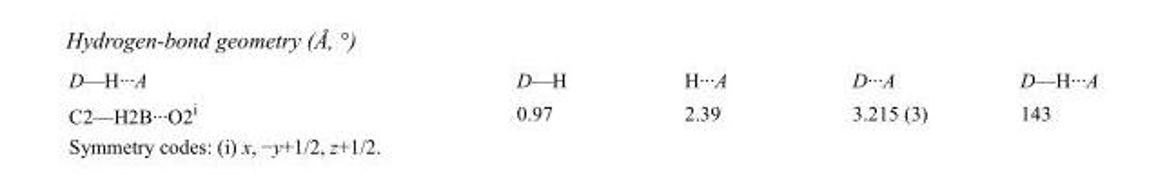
<table><tbody><tr><td>D—H···A</td><td>D—H</td><td>H···A</td><td>D···A</td><td>D—H···A</td></tr><tr><td>C2—H2B···O2<sup>i</sup></td><td>0.97</td><td>2.39</td><td>3.215 (3)</td><td>143</td></tr></tbody></table>